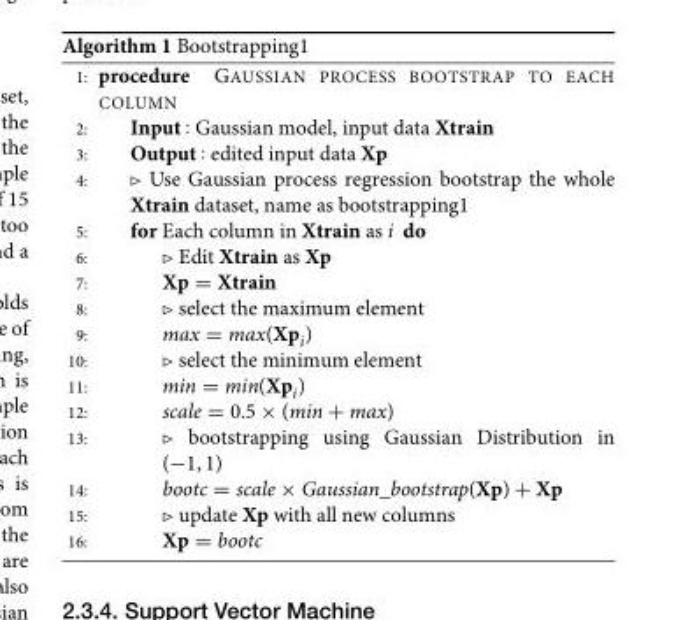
<table><tbody><tr><td>1:</td><td>procedure GAUSSIAN PROCESS BOOTSTRAP TO EACH COLUMN</td></tr><tr><td>2:</td><td>Input : Gaussian model, input data Xtrain</td></tr><tr><td>3:</td><td>Output : edited input data X<sub>p</sub></td></tr><tr><td>4:</td><td>⊲ Use Gaussian process regression bootstrap the whole Xtrain dataset, name as bootstrapping1</td></tr><tr><td>5:</td><td>for Each column in Xtrain as i do</td></tr><tr><td>6:</td><td>⊲ Edit Xtrain as Xp</td></tr><tr><td>7:</td><td>X<sub>p</sub> = Xtrain</td></tr><tr><td>8:</td><td>⊲ select the maximum element</td></tr><tr><td>9:</td><td>max = max(X<sub>pi</sub>)</td></tr><tr><td>10:</td><td>⊲ select the minimum element</td></tr><tr><td>11:</td><td>min = min(X<sub>pi</sub>)</td></tr><tr><td>12:</td><td>scale = 0.5 × (min + max)</td></tr><tr><td>13:</td><td>⊲ bootstrapping using Gaussian Distribution in (−1, 1)</td></tr><tr><td>14:</td><td>bootc = scale × Gaussian_bootstrap(X<sub>p</sub>) + X<sub>p</sub></td></tr><tr><td>15:</td><td>⊲ update Xp with all new columns</td></tr><tr><td>16:</td><td>X<sub>p</sub> = bootc</td></tr></tbody></table>